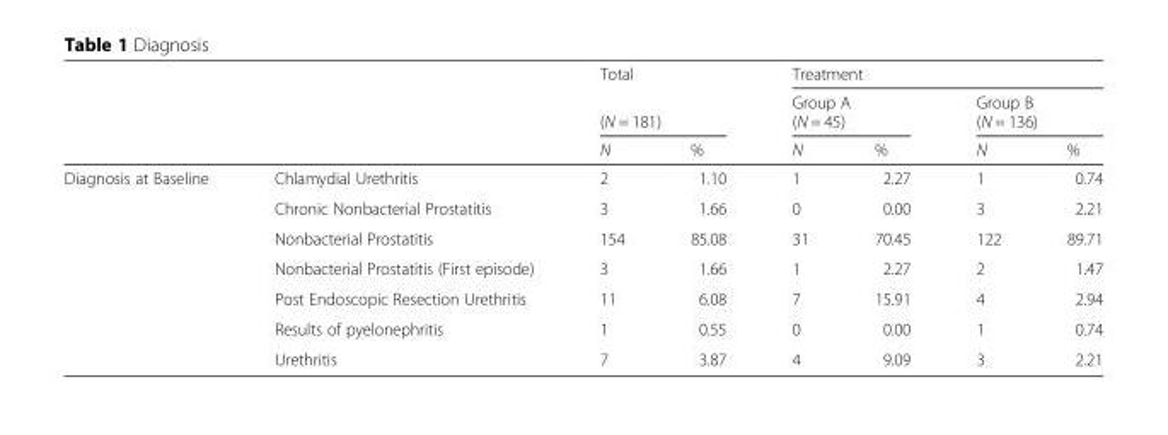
<table><thead><tr><td rowspan="4"></td><td rowspan="4"></td><td rowspan="3" colspan="2">Total (N = 181)</td><td colspan="4">Treatment</td></tr><tr><td rowspan="2" colspan="2">Group A (N = 45)</td><td rowspan="2" colspan="2">Group B (N = 136)</td></tr><tr></tr><tr><td>N</td><td>%</td><td>N</td><td>%</td><td>N</td><td>%</td></tr></thead><tbody><tr><td rowspan="7">Diagnosis at Baseline</td><td>Chlamydial Urethritis</td><td>2</td><td>1.10</td><td>1</td><td>2.27</td><td>1</td><td>0.74</td></tr><tr><td>Chronic Nonbacterial Prostatitis</td><td>3</td><td>1.66</td><td>0</td><td>0.00</td><td>3</td><td>2.21</td></tr><tr><td>Nonbacterial Prostatitis</td><td>154</td><td>85.08</td><td>31</td><td>70.45</td><td>122</td><td>89.71</td></tr><tr><td>Nonbacterial Prostatitis (First episode)</td><td>3</td><td>1.66</td><td>1</td><td>2.27</td><td>2</td><td>1.47</td></tr><tr><td>Post Endoscopic Resection Urethritis</td><td>11</td><td>6.08</td><td>7</td><td>15.91</td><td>4</td><td>2.94</td></tr><tr><td>Results of pyelonephritis</td><td>1</td><td>0.55</td><td>0</td><td>0.00</td><td>1</td><td>0.74</td></tr><tr><td>Urethritis</td><td>7</td><td>3.87</td><td>4</td><td>9.09</td><td>3</td><td>2.21</td></tr></tbody></table>